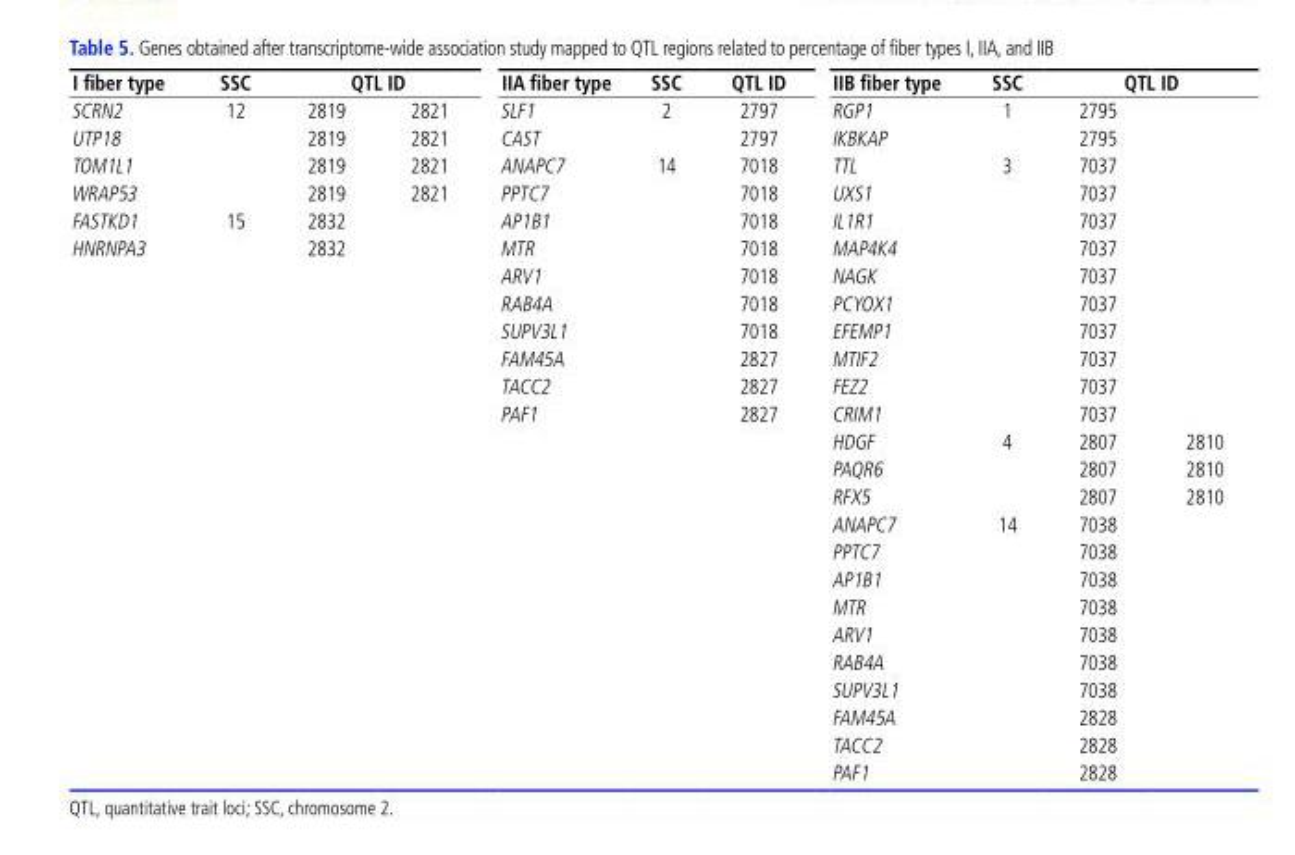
<table><thead><tr><td rowspan="2">I fiber type SCRN2</td><td rowspan="2">SSC 12</td><td colspan="2">QTL ID</td><td rowspan="2">IIA fiber type SLF1</td><td rowspan="2">SSC 2</td><td rowspan="2">QTL ID 2797</td><td rowspan="2">IIB fiber type RGP1</td><td rowspan="2">SSC 1</td><td colspan="2">QTL ID</td></tr><tr><td>2819</td><td>2821</td><td>2795</td><td></td></tr></thead><tbody><tr><td>UTP18</td><td></td><td>2819</td><td>2821</td><td>CAST</td><td></td><td>2797</td><td>IKBKAP</td><td></td><td>2795</td><td></td></tr><tr><td>TOM1L1</td><td></td><td>2819</td><td>2821</td><td>ANAPC7</td><td>14</td><td>7018</td><td>TTL</td><td>3</td><td>7037</td><td></td></tr><tr><td>WRAP53</td><td></td><td>2819</td><td>2821</td><td>PPTC7</td><td></td><td>7018</td><td>UXS1</td><td></td><td>7037</td><td></td></tr><tr><td>FASTKD1</td><td>15</td><td>2832</td><td></td><td>AP1B1</td><td></td><td>7018</td><td>IL1R1</td><td></td><td>7037</td><td></td></tr><tr><td rowspan="20">HNRNPA3</td><td></td><td>2832</td><td></td><td>MTR</td><td></td><td>7018</td><td>MAP4K4</td><td></td><td>7037</td><td></td></tr><tr><td></td><td></td><td></td><td>ARV1</td><td></td><td>7018</td><td>NAGK</td><td></td><td>7037</td><td></td></tr><tr><td></td><td></td><td></td><td>RAB4A</td><td></td><td>7018</td><td>PCYOX1</td><td></td><td>7037</td><td></td></tr><tr><td></td><td></td><td></td><td>SUPV3L1</td><td></td><td>7018</td><td>EFEMP1</td><td></td><td>7037</td><td></td></tr><tr><td></td><td></td><td></td><td>FAM45A</td><td></td><td>2827</td><td>MTIF2</td><td></td><td>7037</td><td></td></tr><tr><td></td><td></td><td></td><td>TACC2</td><td></td><td>2827</td><td>FEZ2</td><td></td><td>7037</td><td></td></tr><tr><td></td><td></td><td></td><td>PAF1</td><td></td><td>2827</td><td>CRIM1</td><td></td><td>7037</td><td></td></tr><tr><td></td><td></td><td></td><td></td><td></td><td></td><td>HDGF</td><td>4</td><td>2807</td><td>2810</td></tr><tr><td></td><td></td><td></td><td></td><td></td><td></td><td>PAQR6</td><td></td><td>2807</td><td>2810</td></tr><tr><td></td><td></td><td></td><td></td><td></td><td></td><td>RFX5</td><td></td><td>2807</td><td>2810</td></tr><tr><td></td><td></td><td></td><td></td><td></td><td></td><td>ANAPC7</td><td>14</td><td>7038</td><td></td></tr><tr><td></td><td></td><td></td><td></td><td></td><td></td><td>PPTC7</td><td></td><td>7038</td><td></td></tr><tr><td></td><td></td><td></td><td></td><td></td><td></td><td>AP1B1</td><td></td><td>7038</td><td></td></tr><tr><td></td><td></td><td></td><td></td><td></td><td></td><td>MTR</td><td></td><td>7038</td><td></td></tr><tr><td></td><td></td><td></td><td></td><td></td><td></td><td>ARV1</td><td></td><td>7038</td><td></td></tr><tr><td></td><td></td><td></td><td></td><td></td><td></td><td>RAB4A</td><td></td><td>7038</td><td></td></tr><tr><td></td><td></td><td></td><td></td><td></td><td></td><td>SUPV3L1</td><td></td><td>7038</td><td></td></tr><tr><td></td><td></td><td></td><td></td><td></td><td></td><td>FAM45A</td><td></td><td>2828</td><td></td></tr><tr><td></td><td></td><td></td><td></td><td></td><td></td><td>TACC2</td><td></td><td>2828</td><td></td></tr><tr><td></td><td></td><td></td><td></td><td></td><td></td><td>PAF1</td><td></td><td>2828</td><td></td></tr></tbody></table>